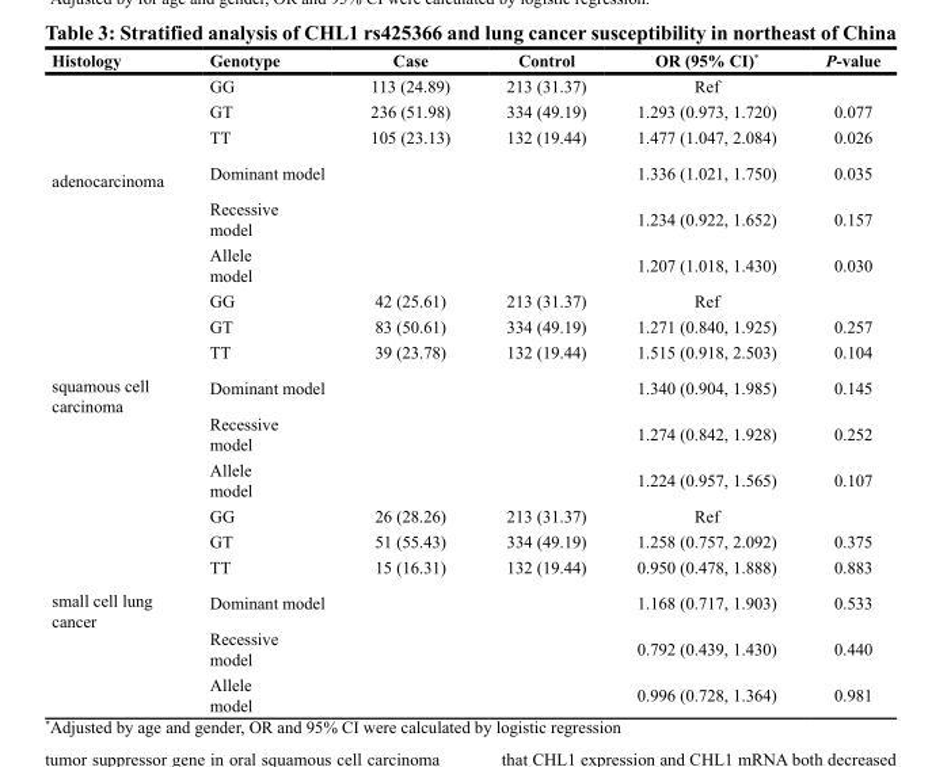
<table><thead><tr><td>Histology</td><td>Genotype</td><td>Case</td><td>Control</td><td>OR (95% CI)*</td><td>P-value</td></tr></thead><tbody><tr><td rowspan="6">adenocarcinoma</td><td>GG</td><td>113 (24.89)</td><td>213 (31.37)</td><td>Ref</td><td></td></tr><tr><td>GT</td><td>236 (51.98)</td><td>334 (49.19)</td><td>1.293 (0.973, 1.720)</td><td>0.077</td></tr><tr><td>TT</td><td>105 (23.13)</td><td>132 (19.44)</td><td>1.477 (1.047, 2.084)</td><td>0.026</td></tr><tr><td>Dominant model</td><td></td><td></td><td>1.336 (1.021, 1.750)</td><td>0.035</td></tr><tr><td>Recessive model</td><td></td><td></td><td>1.234 (0.922, 1.652)</td><td>0.157</td></tr><tr><td>Allele model</td><td></td><td></td><td>1.207 (1.018, 1.430)</td><td>0.030</td></tr><tr><td rowspan="6">squamous cell carcinoma</td><td>GG</td><td>42 (25.61)</td><td>213 (31.37)</td><td>Ref</td><td></td></tr><tr><td>GT</td><td>83 (50.61)</td><td>334 (49.19)</td><td>1.271 (0.840, 1.925)</td><td>0.257</td></tr><tr><td>TT</td><td>39 (23.78)</td><td>132 (19.44)</td><td>1.515 (0.918, 2.503)</td><td>0.104</td></tr><tr><td>Dominant model</td><td></td><td></td><td>1.340 (0.904, 1.985)</td><td>0.145</td></tr><tr><td>Recessive model</td><td></td><td></td><td>1.274 (0.842, 1.928)</td><td>0.252</td></tr><tr><td>Allele model</td><td></td><td></td><td>1.224 (0.957, 1.565)</td><td>0.107</td></tr><tr><td rowspan="6">small cell lung cancer</td><td>GG</td><td>26 (28.26)</td><td>213 (31.37)</td><td>Ref</td><td></td></tr><tr><td>GT</td><td>51 (55.43)</td><td>334 (49.19)</td><td>1.258 (0.757, 2.092)</td><td>0.375</td></tr><tr><td>TT</td><td>15 (16.31)</td><td>132 (19.44)</td><td>0.950 (0.478, 1.888)</td><td>0.883</td></tr><tr><td>Dominant model</td><td></td><td></td><td>1.168 (0.717, 1.903)</td><td>0.533</td></tr><tr><td>Recessive model</td><td></td><td></td><td>0.792 (0.439, 1.430)</td><td>0.440</td></tr><tr><td>Allele model</td><td></td><td></td><td>0.996 (0.728, 1.364)</td><td>0.981</td></tr></tbody></table>